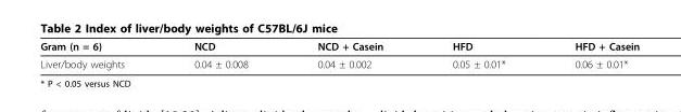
<table><thead><tr><td>Gram (n = 6)</td><td>NCD</td><td>NCD + Casein</td><td>HFD</td><td>HFD + Casein</td></tr></thead><tbody><tr><td>Liver/body weights</td><td>0.04 ± 0.008</td><td>0.04 ± 0.002</td><td>0.05 ± 0.01*</td><td>0.06 ± 0.01*</td></tr></tbody></table>